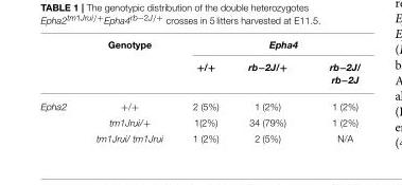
<table><thead><tr><td rowspan="2"></td><td rowspan="2">Genotype</td><td colspan="3">Epha4</td></tr><tr><td>+/+</td><td>rb−2J/+</td><td>rb−2J/ rb−2J</td></tr></thead><tbody><tr><td rowspan="3">Epha2</td><td>+/+</td><td>2 (5%)</td><td>1 (2%)</td><td>1 (2%)</td></tr><tr><td>tm1Jrui/+</td><td>1(2%)</td><td>34 (79%)</td><td>1 (2%)</td></tr><tr><td>tm1Jrui/ tm1Jrui</td><td>1 (2%)</td><td>2 (5%)</td><td>N/A</td></tr></tbody></table>